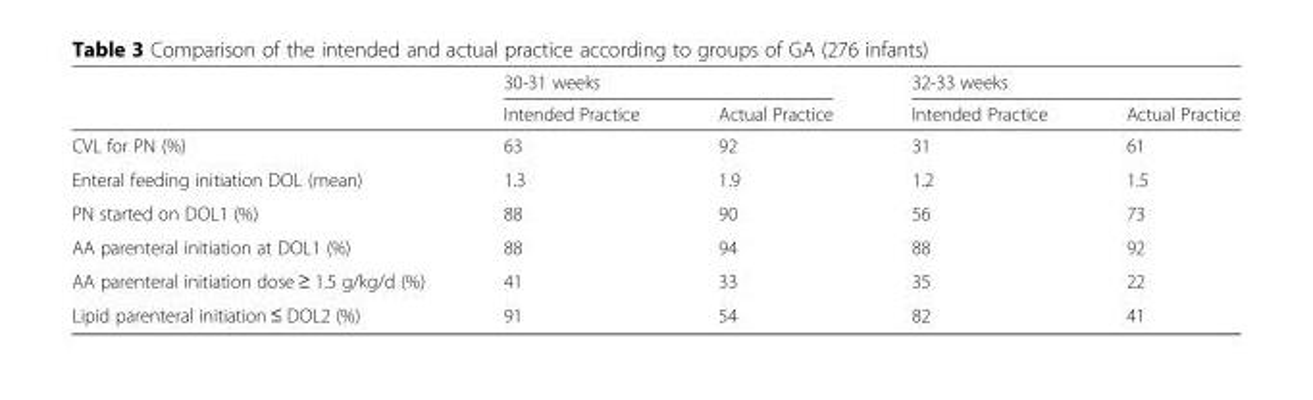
<table><thead><tr><td rowspan="2"></td><td colspan="2">30-31 weeks</td><td colspan="2">32-33 weeks</td></tr><tr><td>Intended Practice</td><td>Actual Practice</td><td>Intended Practice</td><td>Actual Practice</td></tr></thead><tbody><tr><td>CVL for PN (%)</td><td>63</td><td>92</td><td>31</td><td>61</td></tr><tr><td>Enteral feeding initiation DOL (mean)</td><td>1.3</td><td>1.9</td><td>1.2</td><td>1.5</td></tr><tr><td>PN started on DOL1 (%)</td><td>88</td><td>90</td><td>56</td><td>73</td></tr><tr><td>AA parenteral initiation at DOL1 (%)</td><td>88</td><td>94</td><td>88</td><td>92</td></tr><tr><td>AA parenteral initiation dose ≥ 1.5 g/kg/d (%)</td><td>41</td><td>33</td><td>35</td><td>22</td></tr><tr><td>Lipid parenteral initiation ≤ DOL2 (%)</td><td>91</td><td>54</td><td>82</td><td>41</td></tr></tbody></table>